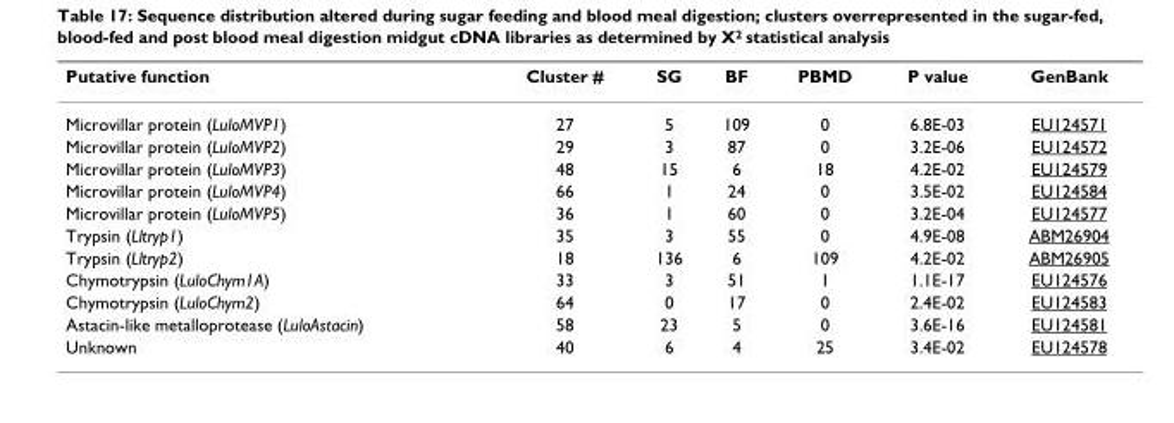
<table><thead><tr><td>Putative function</td><td>Cluster #</td><td>SG</td><td>BF</td><td>PBMD</td><td>P value</td><td>GenBank</td></tr></thead><tbody><tr><td>Microvillar protein (LuloMVP1)</td><td>27</td><td>5</td><td>109</td><td>0</td><td>6.8E-03</td><td>EU124571</td></tr><tr><td>Microvillar protein (LuloMVP2)</td><td>29</td><td>3</td><td>87</td><td>0</td><td>3.2E-06</td><td>EU124572</td></tr><tr><td>Microvillar protein (LuloMVP3)</td><td>48</td><td>15</td><td>6</td><td>18</td><td>4.2E-02</td><td>EU124579</td></tr><tr><td>Microvillar protein (LuloMVP4)</td><td>66</td><td>1</td><td>24</td><td>0</td><td>3.5E-02</td><td>EU124584</td></tr><tr><td>Microvillar protein (LuloMVP5)</td><td>36</td><td>1</td><td>60</td><td>0</td><td>3.2E-04</td><td>EU124577</td></tr><tr><td>Trypsin (Lltryp1)</td><td>35</td><td>3</td><td>55</td><td>0</td><td>4.9E-08</td><td>ABM26904</td></tr><tr><td>Trypsin (Lltryp2)</td><td>18</td><td>136</td><td>6</td><td>109</td><td>4.2E-02</td><td>ABM26905</td></tr><tr><td>Chymotrypsin (LuloChym1A)</td><td>33</td><td>3</td><td>51</td><td>1</td><td>1.1E-17</td><td>EU124576</td></tr><tr><td>Chymotrypsin (LuloChym2)</td><td>64</td><td>0</td><td>17</td><td>0</td><td>2.4E-02</td><td>EU124583</td></tr><tr><td>Astacin-like metalloprotease (LuloAstacin)</td><td>58</td><td>23</td><td>5</td><td>0</td><td>3.6E-16</td><td>EU124581</td></tr><tr><td>Unknown</td><td>40</td><td>6</td><td>4</td><td>25</td><td>3.4E-02</td><td>EU124578</td></tr></tbody></table>